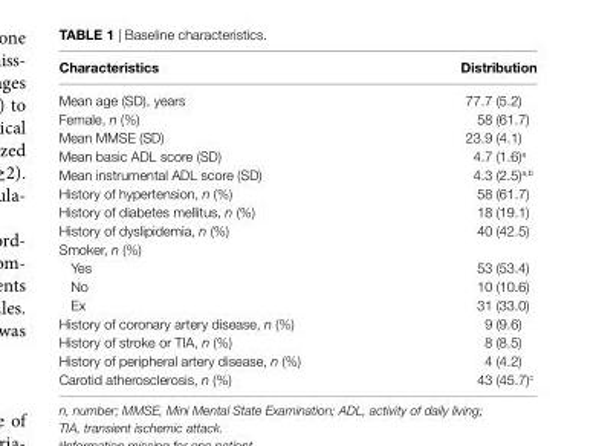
<table><thead><tr><td>characteristics</td><td>Distribution</td></tr></thead><tbody><tr><td>Mean age (SD), years</td><td>77.7 (5.2)</td></tr><tr><td>Female, n (%)</td><td>58 (61.7)</td></tr><tr><td>Mean MMSE (SD)</td><td>23.9 (4.1)</td></tr><tr><td>Mean basic ADL score (SD)</td><td>4.7 (1.6)<sup>a</sup></td></tr><tr><td>Mean instrumental ADL score (SD)</td><td>4.3 (2.5)<sup>a,b</sup></td></tr><tr><td>History of hypertension, n (%)</td><td>58 (61.7)</td></tr><tr><td>History of diabetes mellitus, n (%)</td><td>18 (19.1)</td></tr><tr><td>History of dyslipidemia, n (%)</td><td>40 (42.5)</td></tr><tr><td colspan="2">Smoker, n (%)</td></tr><tr><td>Yes</td><td>53 (53.4)</td></tr><tr><td>No</td><td>10 (10.6)</td></tr><tr><td>Ex</td><td>31 (33.0)</td></tr><tr><td>History of coronary artery disease, n (%)</td><td>9 (9.6)</td></tr><tr><td>History of stroke or TIA, n (%)</td><td>8 (8.5)</td></tr><tr><td>History of peripheral artery disease, n (%)</td><td>4 (4.2)</td></tr><tr><td>Carotid atherosclerosis, n (%)</td><td>43 (45.7)<sup>c</sup></td></tr></tbody></table>